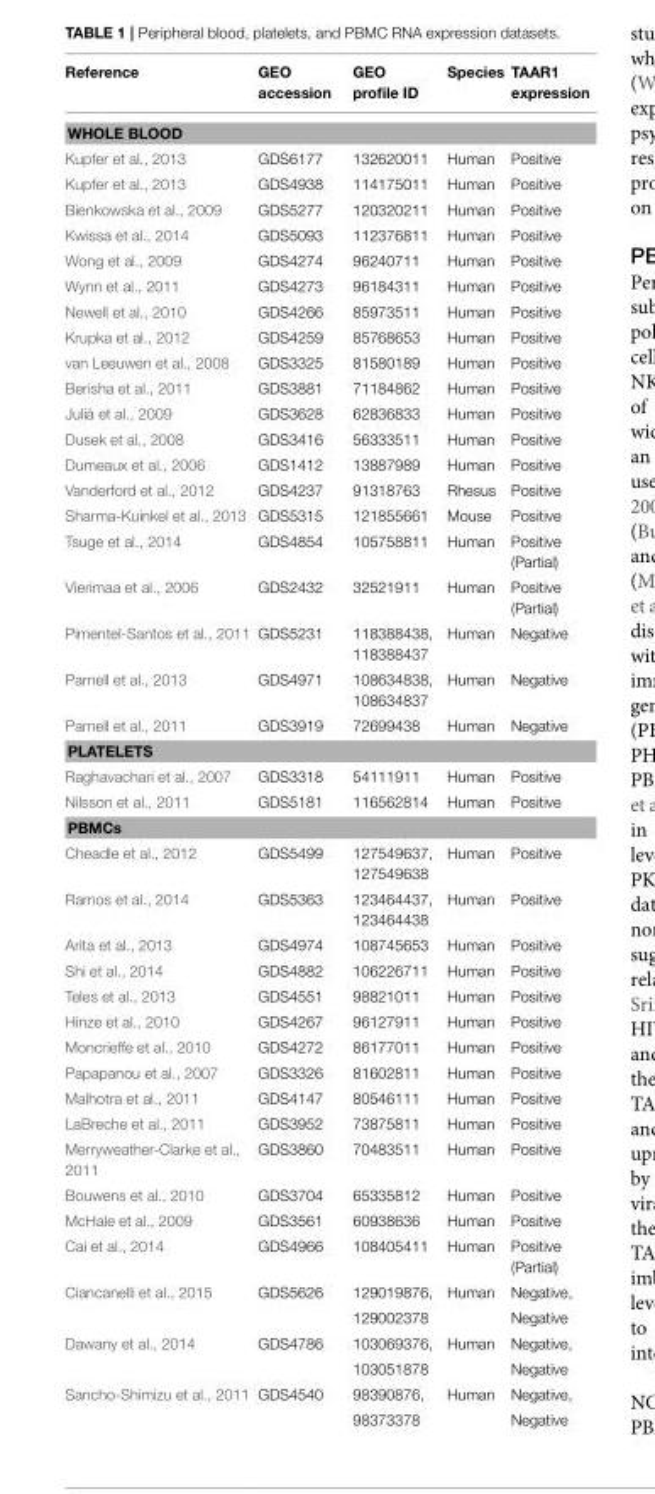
<table><thead><tr><td>Reference</td><td>GEO accession</td><td>GEO profile ID</td><td>Species</td><td>TAAR1 expression</td></tr></thead><tbody><tr><td colspan="5">WHOLE BLOOD</td></tr><tr><td>Kupfer et al., 2013</td><td>GDS6177</td><td>132620011</td><td>Human</td><td>Positive</td></tr><tr><td>Kupfer et al., 2013</td><td>GDS4938</td><td>114175011</td><td>Human</td><td>Positive</td></tr><tr><td>Bienkowska et al., 2009</td><td>GDS5277</td><td>120320211</td><td>Human</td><td>Positive</td></tr><tr><td>Kwissa et al., 2014</td><td>GDS5093</td><td>112376811</td><td>Human</td><td>Positive</td></tr><tr><td>Wong et al., 2009</td><td>GDS4274</td><td>96240711</td><td>Human</td><td>Positive</td></tr><tr><td>Wynn et al., 2011</td><td>GDS4273</td><td>96184311</td><td>Human</td><td>Positive</td></tr><tr><td>Newell et al., 2010</td><td>GDS4266</td><td>85973511</td><td>Human</td><td>Positive</td></tr><tr><td>Krupka et al., 2012</td><td>GDS4259</td><td>85768653</td><td>Human</td><td>Positive</td></tr><tr><td>van Leeuwen et al., 2008</td><td>GDS3325</td><td>81580189</td><td>Human</td><td>Positive</td></tr><tr><td>Berisha et al., 2011</td><td>GDS3881</td><td>71184862</td><td>Human</td><td>Positive</td></tr><tr><td>Julià et al., 2009</td><td>GDS3628</td><td>62836833</td><td>Human</td><td>Positive</td></tr><tr><td>Dusek et al., 2008</td><td>GDS3416</td><td>56333511</td><td>Human</td><td>Positive</td></tr><tr><td>Dumeaux et al., 2006</td><td>GDS1412</td><td>13887989</td><td>Human</td><td>Positive</td></tr><tr><td>Vanderford et al., 2012</td><td>GDS4237</td><td>91318763</td><td>Rhesus</td><td>Positive</td></tr><tr><td>Sharma-Kuinkel et al., 2013</td><td>GDS5315</td><td>121855661</td><td>Mouse</td><td>Positive</td></tr><tr><td>Tsuge et al., 2014</td><td>GDS4854</td><td>105758811</td><td>Human</td><td>Positive (Partial)</td></tr><tr><td>Vierimaa et al., 2006</td><td>GDS2432</td><td>32521911</td><td>Human</td><td>Positive (Partial)</td></tr><tr><td>Pimentel-Santos et al., 2011</td><td>GDS5231</td><td>118388438, 118388437</td><td>Human</td><td>Negative</td></tr><tr><td>Parnell et al., 2013</td><td>GDS4971</td><td>108634838, 108634837</td><td>Human</td><td>Negative</td></tr><tr><td>Parnell et al., 2011</td><td>GDS3919</td><td>72699438</td><td>Human</td><td>Negative</td></tr><tr><td colspan="5">PLATELETS</td></tr><tr><td>Raghavachari et al., 2007</td><td>GDS3318</td><td>54111911</td><td>Human</td><td>Positive</td></tr><tr><td>Nilsson et al., 2011</td><td>GDS5181</td><td>116562814</td><td>Human</td><td>Positive</td></tr><tr><td colspan="5">PBMCs</td></tr><tr><td>Cheadle et al., 2012</td><td>GDS5499</td><td>127549637, 127549638</td><td>Human</td><td>Positive</td></tr><tr><td>Ramos et al., 2014</td><td>GDS5363</td><td>123464437, 123464438</td><td>Human</td><td>Positive</td></tr><tr><td>Arita et al., 2013</td><td>GDS4974</td><td>108745653</td><td>Human</td><td>Positive</td></tr><tr><td>Shi et al., 2014</td><td>GDS4882</td><td>106226711</td><td>Human</td><td>Positive</td></tr><tr><td>Teles et al., 2013</td><td>GDS4551</td><td>98821011</td><td>Human</td><td>Positive</td></tr><tr><td>Hinze et al., 2010</td><td>GDS4267</td><td>96127911</td><td>Human</td><td>Positive</td></tr><tr><td>Moncrieffe et al., 2010</td><td>GDS4272</td><td>86177011</td><td>Human</td><td>Positive</td></tr><tr><td>Papapanou et al., 2007</td><td>GDS3326</td><td>81602811</td><td>Human</td><td>Positive</td></tr><tr><td>Malhotra et al., 2011</td><td>GDS4147</td><td>80546111</td><td>Human</td><td>Positive</td></tr><tr><td>LaBreche et al., 2011</td><td>GDS3952</td><td>73875811</td><td>Human</td><td>Positive</td></tr><tr><td>Merryweather-Clarke et al., 2011</td><td>GDS3860</td><td>70483511</td><td>Human</td><td>Positive</td></tr><tr><td>Bouwens et al., 2010</td><td>GDS3704</td><td>65335812</td><td>Human</td><td>Positive</td></tr><tr><td>McHale et al., 2009</td><td>GDS3561</td><td>60938636</td><td>Human</td><td>Positive</td></tr><tr><td>Cai et al., 2014</td><td>GDS4966</td><td>108405411</td><td>Human</td><td>Positive (Partial)</td></tr><tr><td rowspan="2">Ciancanelli et al., 2015</td><td>GDS5626</td><td>129019876,</td><td>Human</td><td>Negative,</td></tr><tr><td></td><td>129002378</td><td></td><td>Negative</td></tr><tr><td rowspan="2">Dawany et al., 2014</td><td>GDS4786</td><td>103069376,</td><td>Human</td><td>Negative,</td></tr><tr><td></td><td>103051878</td><td></td><td>Negative</td></tr><tr><td rowspan="2">Sancho-Shimizu et al., 2011</td><td>GDS4540</td><td>98390876,</td><td>Human</td><td>Negative,</td></tr><tr><td></td><td>98373378</td><td></td><td>Negative</td></tr></tbody></table>